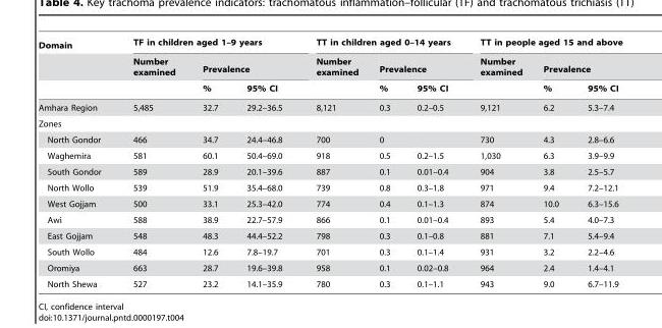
<table><thead><tr><td rowspan="3">Domain</td><td colspan="3">TF in children aged 1–9 years</td><td colspan="3">TT in children aged 0–14 years</td><td colspan="3">TT in people aged 15 and above</td></tr><tr><td rowspan="2">Number examined</td><td colspan="2">Prevalence</td><td rowspan="2">Number examined</td><td colspan="2">Prevalence</td><td rowspan="2">Number examined</td><td colspan="2">Prevalence</td></tr><tr><td>%</td><td>95% CI</td><td>%</td><td>95% CI</td><td>%</td><td>95% CI</td></tr></thead><tbody><tr><td>Amhara Region</td><td>5,485</td><td>32.7</td><td>29.2–36.5</td><td>8,121</td><td>0.3</td><td>0.2–0.5</td><td>9,121</td><td>6.2</td><td>5.3–7.4</td></tr><tr><td colspan="10">Zones</td></tr><tr><td>North Gondor</td><td>466</td><td>34.7</td><td>24.4–46.8</td><td>700</td><td>0</td><td></td><td>730</td><td>4.3</td><td>2.8–6.6</td></tr><tr><td>Waghemira</td><td>581</td><td>60.1</td><td>50.4–69.0</td><td>918</td><td>0.5</td><td>0.2–1.5</td><td>1,030</td><td>6.3</td><td>3.9–9.9</td></tr><tr><td>South Gondor</td><td>589</td><td>28.9</td><td>20.1–39.6</td><td>887</td><td>0.1</td><td>0.01–0.4</td><td>904</td><td>3.8</td><td>2.5–5.7</td></tr><tr><td>North Wollo</td><td>539</td><td>51.9</td><td>35.4–68.0</td><td>739</td><td>0.8</td><td>0.3–1.8</td><td>971</td><td>9.4</td><td>7.2–12.1</td></tr><tr><td>West Gojjam</td><td>500</td><td>33.1</td><td>25.3–42.0</td><td>774</td><td>0.4</td><td>0.1–1.3</td><td>874</td><td>10.0</td><td>6.3–15.6</td></tr><tr><td>Awi</td><td>588</td><td>38.9</td><td>22.7–57.9</td><td>866</td><td>0.1</td><td>0.01–0.4</td><td>893</td><td>5.4</td><td>4.0–7.3</td></tr><tr><td>East Gojjam</td><td>548</td><td>48.3</td><td>44.4–52.2</td><td>798</td><td>0.3</td><td>0.1–0.8</td><td>881</td><td>7.1</td><td>5.4–9.4</td></tr><tr><td>South Wollo</td><td>484</td><td>12.6</td><td>7.8–19.7</td><td>701</td><td>0.3</td><td>0.1–1.4</td><td>931</td><td>3.2</td><td>2.2–4.6</td></tr><tr><td>Oromiya</td><td>663</td><td>28.7</td><td>19.6–39.8</td><td>958</td><td>0.1</td><td>0.02–0.8</td><td>964</td><td>2.4</td><td>1.4–4.1</td></tr><tr><td>North Shewa</td><td>527</td><td>23.2</td><td>14.1–35.9</td><td>780</td><td>0.3</td><td>0.1–1.1</td><td>943</td><td>9.0</td><td>6.7–11.9</td></tr></tbody></table>